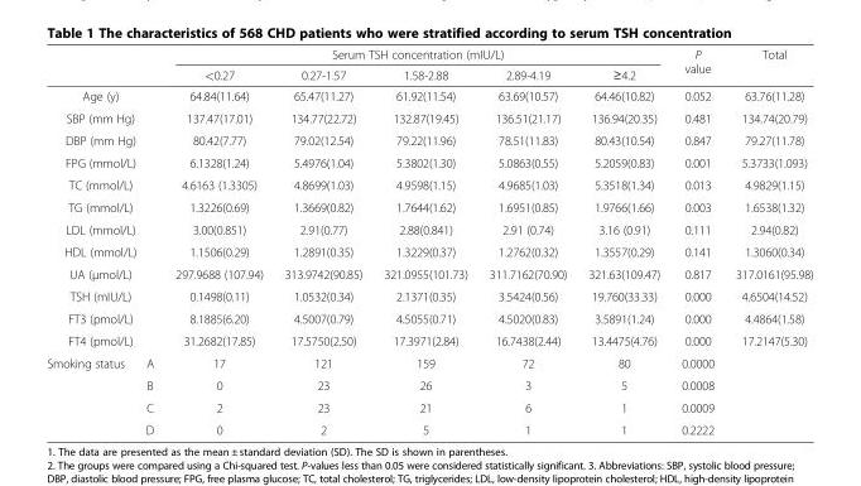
<table><thead><tr><td rowspan="2"></td><td rowspan="2"></td><td colspan="5">Serum TSH concentration (mIU/L)</td><td rowspan="2">P value</td><td rowspan="2">Total</td></tr><tr><td>&lt;0.27</td><td>0.27-1.57</td><td>1.58-2.88</td><td>2.89-4.19</td><td>≥4.2</td></tr></thead><tbody><tr><td colspan="2">Age (y)</td><td>64.84(11.64)</td><td>65.47(11.27)</td><td>61.92(11.54)</td><td>63.69(10.57)</td><td>64.46(10.82)</td><td>0.052</td><td>63.76(11.28)</td></tr><tr><td colspan="2">SBP (mm Hg)</td><td>137.47(17.01)</td><td>134.77(22.72)</td><td>132.87(19.45)</td><td>136.51(21.17)</td><td>136.94(20.35)</td><td>0.481</td><td>134.74(20.79)</td></tr><tr><td colspan="2">DBP (mm Hg)</td><td>80.42(7.77)</td><td>79.02(12.54)</td><td>79.22(11.96)</td><td>78.51(11.83)</td><td>80.43(10.54)</td><td>0.847</td><td>79.27(11.78)</td></tr><tr><td colspan="2">FPG (mmol/L)</td><td>6.1328(1.24)</td><td>5.4976(1.04)</td><td>5.3802(1.30)</td><td>5.0863(0.55)</td><td>5.2059(0.83)</td><td>0.001</td><td>5.3733(1.093)</td></tr><tr><td colspan="2">TC (mmol/L)</td><td>4.6163 (1.3305)</td><td>4.8699(1.03)</td><td>4.9598(1.15)</td><td>4.9685(1.03)</td><td>5.3518(1.34)</td><td>0.013</td><td>4.9829(1.15)</td></tr><tr><td colspan="2">TG (mmol/L)</td><td>1.3226(0.69)</td><td>1.3669(0.82)</td><td>1.7644(1.62)</td><td>1.6951(0.85)</td><td>1.9766(1.66)</td><td>0.003</td><td>1.6538(1.32)</td></tr><tr><td colspan="2">LDL (mmol/L)</td><td>3.00(0.851)</td><td>2.91(0.77)</td><td>2.88(0.841)</td><td>2.91 (0.74)</td><td>3.16 (0.91)</td><td>0.111</td><td>2.94(0.82)</td></tr><tr><td colspan="2">HDL (mmol/L)</td><td>1.1506(0.29)</td><td>1.2891(0.35)</td><td>1.3229(0.37)</td><td>1.2762(0.32)</td><td>1.3557(0.29)</td><td>0.141</td><td>1.3060(0.34)</td></tr><tr><td colspan="2">UA (μmol/L)</td><td>297.9688 (107.94)</td><td>313.9742(90.85)</td><td>321.0955(101.73)</td><td>311.7162(70.90)</td><td>321.63(109.47)</td><td>0.817</td><td>317.0161(95.98)</td></tr><tr><td colspan="2">TSH (mIU/L)</td><td>0.1498(0.11)</td><td>1.0532(0.34)</td><td>2.1371(0.35)</td><td>3.5424(0.56)</td><td>19.760(33.33)</td><td>0.000</td><td>4.6504(14.52)</td></tr><tr><td colspan="2">FT3 (pmol/L)</td><td>8.1885(6.20)</td><td>4.5007(0.79)</td><td>4.5055(0.71)</td><td>4.5020(0.83)</td><td>3.5891(1.24)</td><td>0.000</td><td>4.4864(1.58)</td></tr><tr><td colspan="2">FT4 (pmol/L)</td><td>31.2682(17.85)</td><td>17.5750(2.50)</td><td>17.3971(2.84)</td><td>16.7438(2.44)</td><td>13.4475(4.76)</td><td>0.000</td><td>17.2147(5.30)</td></tr><tr><td rowspan="4">Smoking status</td><td>A</td><td>17</td><td>121</td><td>159</td><td>72</td><td>80</td><td>0.0000</td><td></td></tr><tr><td>B</td><td>0</td><td>23</td><td>26</td><td>3</td><td>5</td><td>0.0008</td><td></td></tr><tr><td>C</td><td>2</td><td>23</td><td>21</td><td>6</td><td>1</td><td>0.0009</td><td></td></tr><tr><td>D</td><td>0</td><td>2</td><td>5</td><td>1</td><td>1</td><td>0.2222</td><td></td></tr></tbody></table>